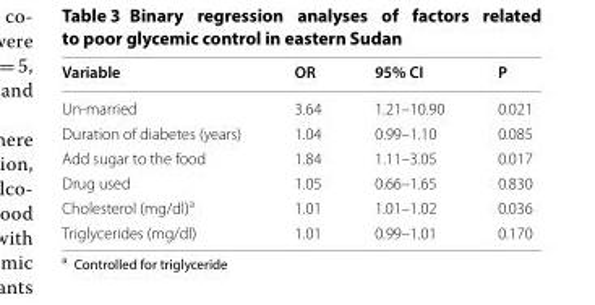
<table><thead><tr><td>Variable</td><td>OR</td><td>95% CI</td><td>P</td></tr></thead><tbody><tr><td>Un-married</td><td>3.64</td><td>1.21–10.90</td><td>0.021</td></tr><tr><td>Duration of diabetes (years)</td><td>1.04</td><td>0.99–1.10</td><td>0.085</td></tr><tr><td>Add sugar to the food</td><td>1.84</td><td>1.11–3.05</td><td>0.017</td></tr><tr><td>Drug used</td><td>1.05</td><td>0.66–1.65</td><td>0.830</td></tr><tr><td>Cholesterol (mg/dl)<sup>a</sup></td><td>1.01</td><td>1.01–1.02</td><td>0.036</td></tr><tr><td>Triglycerides (mg/dl)</td><td>1.01</td><td>0.99–1.01</td><td>0.170</td></tr></tbody></table>